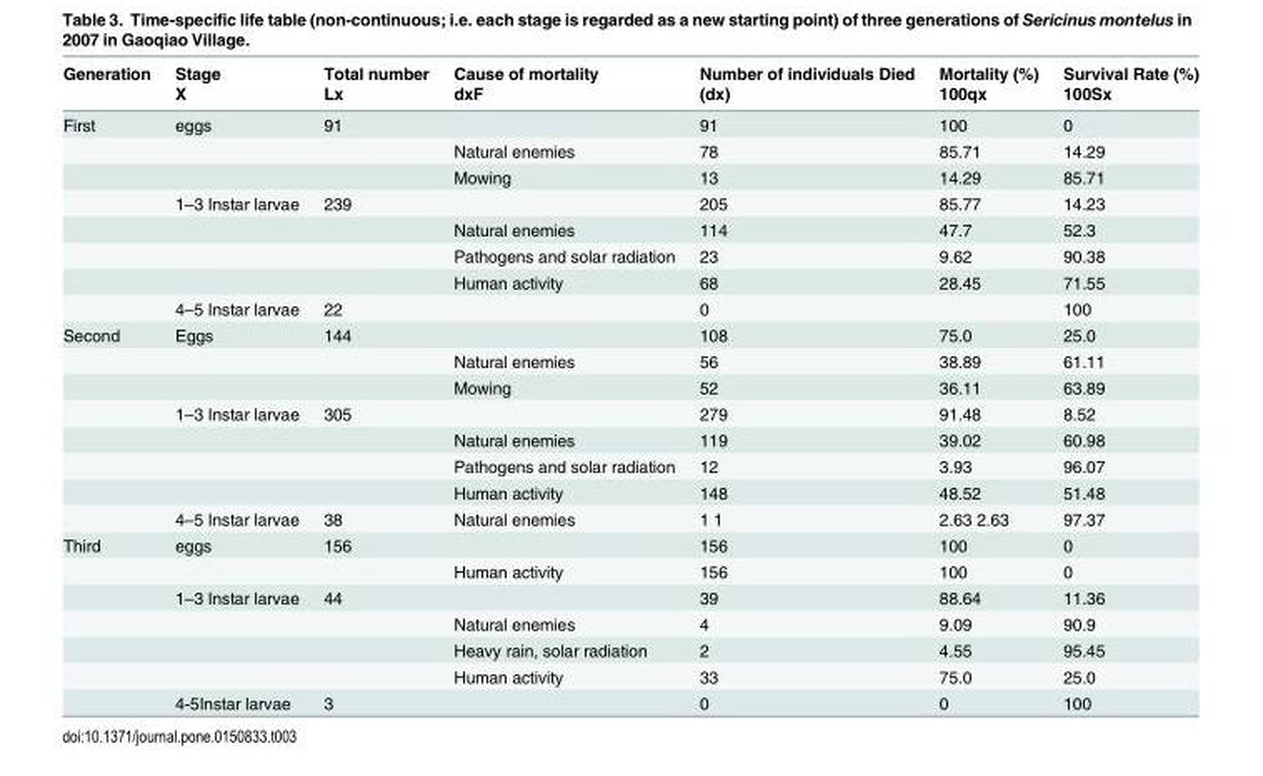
<table><thead><tr><td rowspan="2">Generation</td><td rowspan="2">Stage X</td><td rowspan="2">Total number Lx</td><td rowspan="2">Cause of mortality dxF</td><td rowspan="2">Number of individuals Died (dx)</td><td rowspan="2">Mortality (%) 100qx</td><td rowspan="2">Survival Rate (%) 100Sx</td></tr><tr></tr></thead><tbody><tr><td rowspan="8">First</td><td>eggs</td><td>91</td><td></td><td>91</td><td>100</td><td>0</td></tr><tr><td></td><td></td><td>Natural enemies</td><td>78</td><td>85.71</td><td>14.29</td></tr><tr><td></td><td></td><td>Mowing</td><td>13</td><td>14.29</td><td>85.71</td></tr><tr><td>1–3 Instar larvae</td><td>239</td><td></td><td>205</td><td>85.77</td><td>14.23</td></tr><tr><td></td><td></td><td>Natural enemies</td><td>114</td><td>47.7</td><td>52.3</td></tr><tr><td></td><td></td><td>Pathogens and solar radiation</td><td>23</td><td>9.62</td><td>90.38</td></tr><tr><td></td><td></td><td>Human activity</td><td>68</td><td>28.45</td><td>71.55</td></tr><tr><td>4–5 Instar larvae</td><td>22</td><td></td><td>0</td><td></td><td>100</td></tr><tr><td rowspan="8">Second</td><td>Eggs</td><td>144</td><td></td><td>108</td><td>75.0</td><td>25.0</td></tr><tr><td></td><td></td><td>Natural enemies</td><td>56</td><td>38.89</td><td>61.11</td></tr><tr><td></td><td></td><td>Mowing</td><td>52</td><td>36.11</td><td>63.89</td></tr><tr><td>1–3 Instar larvae</td><td>305</td><td></td><td>279</td><td>91.48</td><td>8.52</td></tr><tr><td></td><td></td><td>Natural enemies</td><td>119</td><td>39.02</td><td>60.98</td></tr><tr><td></td><td></td><td>Pathogens and solar radiation</td><td>12</td><td>3.93</td><td>96.07</td></tr><tr><td></td><td></td><td>Human activity</td><td>148</td><td>48.52</td><td>51.48</td></tr><tr><td>4–5 Instar larvae</td><td>38</td><td>Natural enemies</td><td>1 1</td><td>2.63 2.63</td><td>97.37</td></tr><tr><td rowspan="7">Third</td><td>eggs</td><td>156</td><td></td><td>156</td><td>100</td><td>0</td></tr><tr><td></td><td></td><td>Human activity</td><td>156</td><td>100</td><td>0</td></tr><tr><td>1–3 Instar larvae</td><td>44</td><td></td><td>39</td><td>88.64</td><td>11.36</td></tr><tr><td></td><td></td><td>Natural enemies</td><td>4</td><td>9.09</td><td>90.9</td></tr><tr><td></td><td></td><td>Heavy rain, solar radiation</td><td>2</td><td>4.55</td><td>95.45</td></tr><tr><td></td><td></td><td>Human activity</td><td>33</td><td>75.0</td><td>25.0</td></tr><tr><td>4-5Instar larvae</td><td>3</td><td></td><td>0</td><td>0</td><td>100</td></tr></tbody></table>